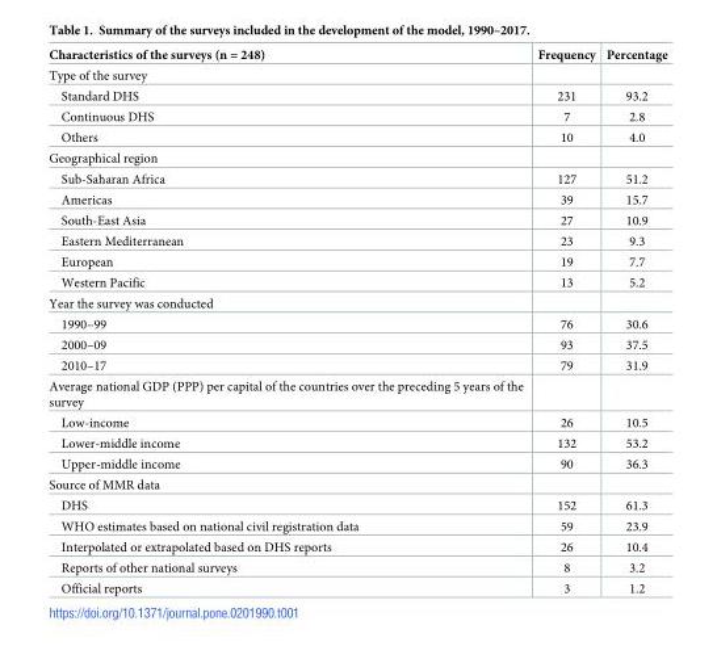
<table><thead><tr><td>Characteristics of the surveys (n = 248)</td><td>Frequency</td><td>Percentage</td></tr></thead><tbody><tr><td colspan="3">Type of the survey</td></tr><tr><td>Standard DHS</td><td>231</td><td>93.2</td></tr><tr><td>Continuous DHS</td><td>7</td><td>2.8</td></tr><tr><td>Others</td><td>10</td><td>4.0</td></tr><tr><td colspan="3">Geographical region</td></tr><tr><td>Sub-Saharan Africa</td><td>127</td><td>51.2</td></tr><tr><td>Americas</td><td>39</td><td>15.7</td></tr><tr><td>South-East Asia</td><td>27</td><td>10.9</td></tr><tr><td>Eastern Mediterranean</td><td>23</td><td>9.3</td></tr><tr><td>European</td><td>19</td><td>7.7</td></tr><tr><td>Western Pacific</td><td>13</td><td>5.2</td></tr><tr><td colspan="3">Year the survey was conducted</td></tr><tr><td>1990–99</td><td>76</td><td>30.6</td></tr><tr><td>2000–09</td><td>93</td><td>37.5</td></tr><tr><td>2010–17</td><td>79</td><td>31.9</td></tr><tr><td colspan="3">Average national GDP (PPP) per capital of the countries over the preceding 5 years of the survey</td></tr><tr><td>Low-income</td><td>26</td><td>10.5</td></tr><tr><td>Lower-middle income</td><td>132</td><td>53.2</td></tr><tr><td>Upper-middle income</td><td>90</td><td>36.3</td></tr><tr><td colspan="3">Source of MMR data</td></tr><tr><td>DHS</td><td>152</td><td>61.3</td></tr><tr><td>WHO estimates based on national civil registration data</td><td>59</td><td>23.9</td></tr><tr><td>Interpolated or extrapolated based on DHS reports</td><td>26</td><td>10.4</td></tr><tr><td>Reports of other national surveys</td><td>8</td><td>3.2</td></tr><tr><td>Official reports</td><td>3</td><td>1.2</td></tr></tbody></table>